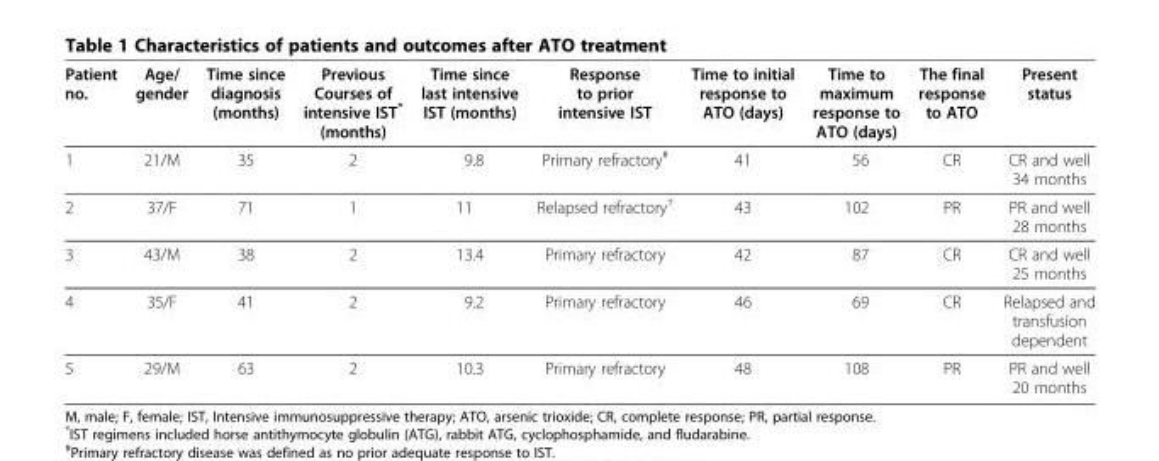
<table><thead><tr><td>Patient no.</td><td>Age/ gender</td><td>Time since diagnosis (months)</td><td>Previous Courses of intensive IST* (months)</td><td>Time since last intensive IST (months)</td><td>Response to prior intensive IST</td><td>Time to initial response to ATO (days)</td><td>Time to maximum response to ATO (days)</td><td>The final response to ATO</td><td>Present status</td></tr></thead><tbody><tr><td>1</td><td>21/M</td><td>35</td><td>2</td><td>9.8</td><td>Primary refractory<sup>#</sup></td><td>41</td><td>56</td><td>CR</td><td>CR and well 34 months</td></tr><tr><td>2</td><td>37/F</td><td>71</td><td>1</td><td>11</td><td>Relapsed refractory<sup>†</sup></td><td>43</td><td>102</td><td>PR</td><td>PR and well 28 months</td></tr><tr><td>3</td><td>43/M</td><td>38</td><td>2</td><td>13.4</td><td>Primary refractory</td><td>42</td><td>87</td><td>CR</td><td>CR and well 25 months</td></tr><tr><td>4</td><td>35/F</td><td>41</td><td>2</td><td>9.2</td><td>Primary refractory</td><td>46</td><td>69</td><td>CR</td><td>Relapsed and transfusion dependent</td></tr><tr><td>5</td><td>29/M</td><td>63</td><td>2</td><td>10.3</td><td>Primary refractory</td><td>48</td><td>108</td><td>PR</td><td>PR and well 20 months</td></tr></tbody></table>